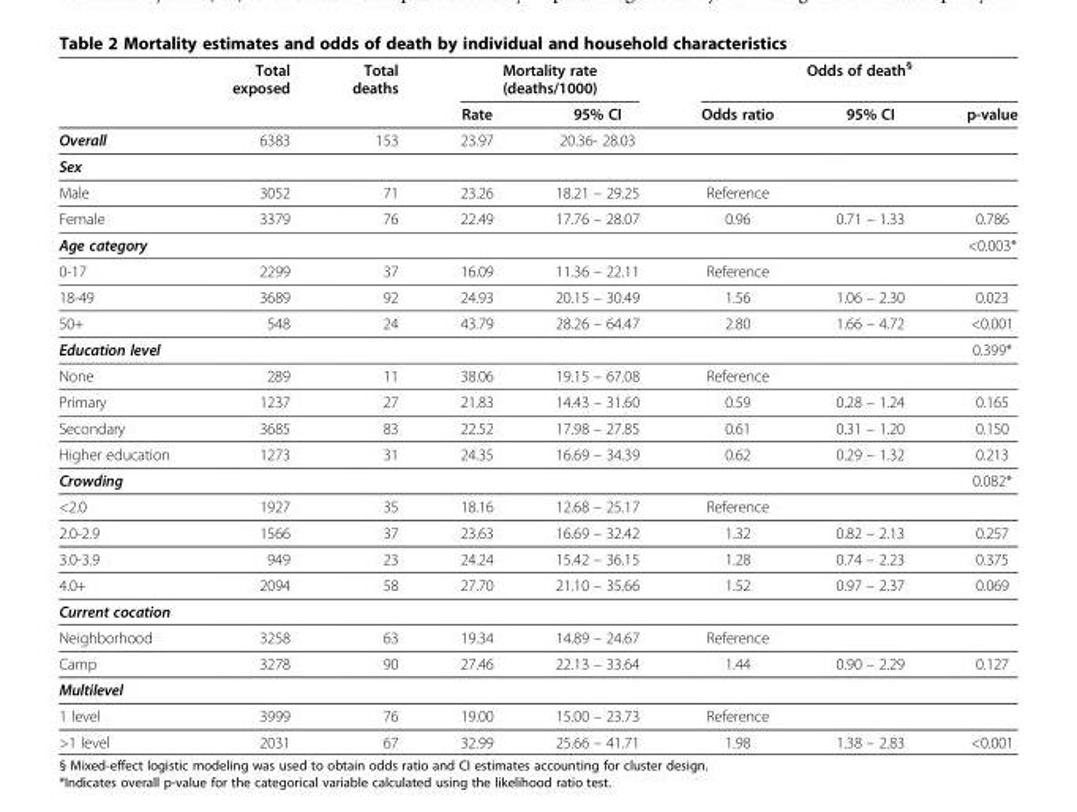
<table><thead><tr><td rowspan="2"></td><td rowspan="2">Total exposed</td><td rowspan="2">Total deaths</td><td colspan="2">Mortality rate (deaths/1000)</td><td colspan="3">Odds of death<sup>§</sup></td></tr><tr><td>Rate</td><td>95% CI</td><td>Odds ratio</td><td>95% CI</td><td>p-value</td></tr></thead><tbody><tr><td>Overall</td><td>6383</td><td>153</td><td>23.97</td><td>20.36- 28.03</td><td></td><td></td><td></td></tr><tr><td colspan="8">Sex</td></tr><tr><td>Male</td><td>3052</td><td>71</td><td>23.26</td><td>18.21 – 29.25</td><td>Reference</td><td></td><td></td></tr><tr><td>Female</td><td>3379</td><td>76</td><td>22.49</td><td>17.76 – 28.07</td><td>0.96</td><td>0.71 – 1.33</td><td>0.786</td></tr><tr><td>Age category</td><td></td><td></td><td></td><td></td><td></td><td></td><td>&lt;0.003*</td></tr><tr><td>0-17</td><td>2299</td><td>37</td><td>16.09</td><td>11.36 – 22.11</td><td>Reference</td><td></td><td></td></tr><tr><td>18-49</td><td>3689</td><td>92</td><td>24.93</td><td>20.15 – 30.49</td><td>1.56</td><td>1.06 – 2.30</td><td>0.023</td></tr><tr><td>50+</td><td>548</td><td>24</td><td>43.79</td><td>28.26 – 64.47</td><td>2.80</td><td>1.66 – 4.72</td><td>&lt;0.001</td></tr><tr><td>Education level</td><td colspan="2"></td><td></td><td></td><td></td><td></td><td>0.399*</td></tr><tr><td>None</td><td>289</td><td>11</td><td>38.06</td><td>19.15 – 67.08</td><td>Reference</td><td></td><td></td></tr><tr><td>Primary</td><td>1237</td><td>27</td><td>21.83</td><td>14.43 – 31.60</td><td>0.59</td><td>0.28 – 1.24</td><td>0.165</td></tr><tr><td>Secondary</td><td>3685</td><td>83</td><td>22.52</td><td>17.98 – 27.85</td><td>0.61</td><td>0.31 – 1.20</td><td>0.150</td></tr><tr><td>Higher education</td><td>1273</td><td>31</td><td>24.35</td><td>16.69 – 34.39</td><td>0.62</td><td>0.29 – 1.32</td><td>0.213</td></tr><tr><td>Crowding</td><td colspan="2"></td><td></td><td></td><td></td><td></td><td>0.082*</td></tr><tr><td>&lt;2.0</td><td>1927</td><td>35</td><td>18.16</td><td>12.68 – 25.17</td><td>Reference</td><td></td><td></td></tr><tr><td>2.0-2.9</td><td>1566</td><td>37</td><td>23.63</td><td>16.69 – 32.42</td><td>1.32</td><td>0.82 – 2.13</td><td>0.257</td></tr><tr><td>3.0-3.9</td><td>949</td><td>23</td><td>24.24</td><td>15.42 – 36.15</td><td>1.28</td><td>0.74 – 2.23</td><td>0.375</td></tr><tr><td>4.0+</td><td>2094</td><td>58</td><td>27.70</td><td>21.10 – 35.66</td><td>1.52</td><td>0.97 – 2.37</td><td>0.069</td></tr><tr><td colspan="8">Current cocation</td></tr><tr><td>Neighborhood</td><td>3258</td><td>63</td><td>19.34</td><td>14.89 – 24.67</td><td>Reference</td><td></td><td></td></tr><tr><td>Camp</td><td>3278</td><td>90</td><td>27.46</td><td>22.13 – 33.64</td><td>1.44</td><td>0.90 – 2.29</td><td>0.127</td></tr><tr><td colspan="8">Multilevel</td></tr><tr><td>1 level</td><td>3999</td><td>76</td><td>19.00</td><td>15.00 – 23.73</td><td>Reference</td><td></td><td></td></tr><tr><td>&gt;1 level</td><td>2031</td><td>67</td><td>32.99</td><td>25.66 – 41.71</td><td>1.98</td><td>1.38 – 2.83</td><td>&lt;0.001</td></tr></tbody></table>